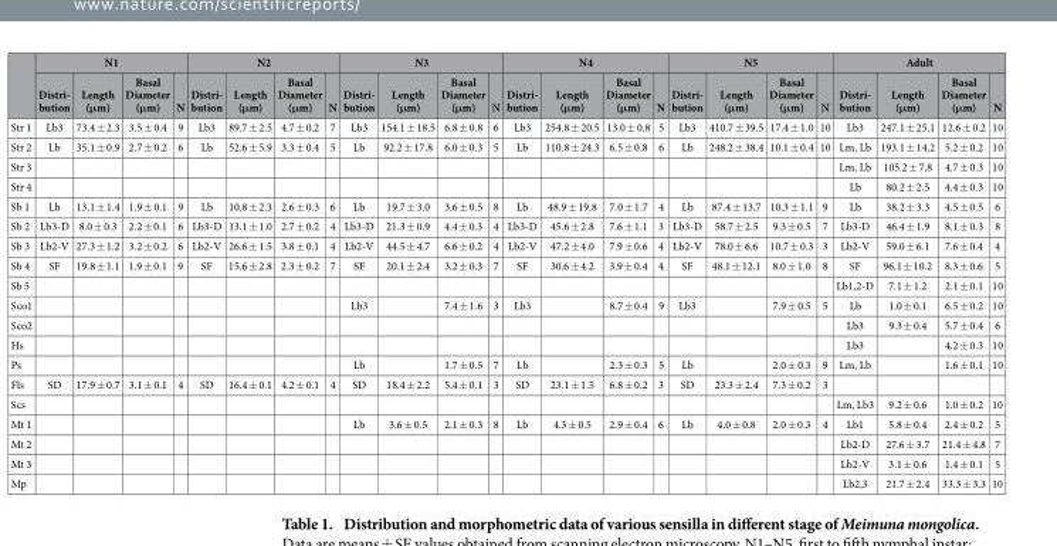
<table><thead><tr><td rowspan="2"></td><td colspan="4">N1</td><td colspan="4">N2</td><td colspan="4">N3</td><td colspan="4">N4</td><td colspan="4">N5</td><td colspan="4">Adult</td></tr><tr><td>Distri- bution</td><td>Length (μm)</td><td>Basal Diameter (μm)</td><td>N</td><td>Distri- bution</td><td>Length (μm)</td><td>Basal Diameter (μm)</td><td>N</td><td>Distri- bution</td><td>Length (μm)</td><td>Basal Diameter (μm)</td><td>N</td><td>Distri- bution</td><td>Length (μm)</td><td>Basal Diameter (μm)</td><td>N</td><td>Distri- bution</td><td>Length (μm)</td><td>Basal Diameter (μm)</td><td>N</td><td>Distri- bution</td><td>Length (μm)</td><td>Basal Diameter (μm)</td><td>N</td></tr></thead><tbody><tr><td>Str 1</td><td>Lb3</td><td>73.4 ± 2.3</td><td>3.5 ± 0.4</td><td>9</td><td>Lb3</td><td>89.7 ± 2.5</td><td>4.7 ± 0.2</td><td>7</td><td>Lb3</td><td>154.1 ± 18.5</td><td>6.8 ± 0.8</td><td>6</td><td>Lb3</td><td>254.8 ± 20.5</td><td>13.0 ± 0.8</td><td>5</td><td>Lb3</td><td>410.7 ± 39.5</td><td>17.4 ± 1.0</td><td>10</td><td>Lb3</td><td>247.1 ± 25.1</td><td>12.6 ± 0.2</td><td>10</td></tr><tr><td>Str 2</td><td>Lb</td><td>35.1 ± 0.9</td><td>2.7 ± 0.2</td><td>6</td><td>Lb</td><td>52.6 ± 5.9</td><td>3.3 ± 0.4</td><td>5</td><td>Lb</td><td>92.2 ± 17.8</td><td>6.0 ± 0.3</td><td>5</td><td>Lb</td><td>110.8 ± 24.3</td><td>6.5 ± 0.8</td><td>6</td><td>Lb</td><td>248.2 ± 38.4</td><td>10.1 ± 0.4</td><td>10</td><td>Lm, Lb</td><td>193.1 ± 14.2</td><td>5.2 ± 0.2</td><td>10</td></tr><tr><td>Str 3</td><td></td><td></td><td></td><td></td><td></td><td></td><td></td><td></td><td></td><td></td><td></td><td></td><td></td><td></td><td></td><td></td><td></td><td></td><td></td><td></td><td>Lm, Lb</td><td>105.2 ± 7.8</td><td>4.7 ± 0.3</td><td>10</td></tr><tr><td>Str 4</td><td></td><td></td><td></td><td></td><td></td><td></td><td></td><td></td><td></td><td></td><td></td><td></td><td></td><td></td><td></td><td></td><td></td><td></td><td></td><td></td><td>Lb</td><td>80.2 ± 2.5</td><td>4.4 ± 0.3</td><td>10</td></tr><tr><td>Sb 1</td><td>Lb</td><td>13.1 ± 1.4</td><td>1.9 ± 0.1</td><td>9</td><td>Lb</td><td>10.8 ± 2.3</td><td>2.6 ± 0.3</td><td>6</td><td>Lb</td><td>19.7 ± 3.0</td><td>3.6 ± 0.5</td><td>8</td><td>Lb</td><td>48.9 ± 19.8</td><td>7.0 ± 1.7</td><td>4</td><td>Lb</td><td>87.4 ± 13.7</td><td>10.3 ± 1.1</td><td>9</td><td>Lb</td><td>38.2 ± 3.3</td><td>4.5 ± 0.5</td><td>6</td></tr><tr><td>Sb 2</td><td>Lb3-D</td><td>8.0 ± 0.3</td><td>2.2 ± 0.1</td><td>6</td><td>Lb3-D</td><td>13.1 ± 1.0</td><td>2.7 ± 0.2</td><td>4</td><td>Lb3-D</td><td>21.3 ± 0.9</td><td>4.4 ± 0.3</td><td>4</td><td>Lb3-D</td><td>45.6 ± 2.8</td><td>7.6 ± 1.1</td><td>3</td><td>Lb3-D</td><td>58.7 ± 2.5</td><td>9.3 ± 0.5</td><td>7</td><td>Lb3-D</td><td>46.4 ± 1.9</td><td>8.1 ± 0.3</td><td>8</td></tr><tr><td>Sb 3</td><td>Lb2-V</td><td>27.3 ± 1.2</td><td>3.2 ± 0.2</td><td>6</td><td>Lb2-V</td><td>26.6 ± 1.5</td><td>3.8 ± 0.1</td><td>4</td><td>Lb2-V</td><td>44.5 ± 4.7</td><td>6.6 ± 0.2</td><td>4</td><td>Lb2-V</td><td>47.2 ± 4.0</td><td>7.9 ± 0.6</td><td>4</td><td>Lb2-V</td><td>78.0 ± 6.6</td><td>10.7 ± 0.3</td><td>3</td><td>Lb2-V</td><td>59.0 ± 6.1</td><td>7.6 ± 0.4</td><td>4</td></tr><tr><td>Sb 4</td><td>SF</td><td>19.8 ± 1.1</td><td>1.9 ± 0.1</td><td>9</td><td>SF</td><td>15.6 ± 2.8</td><td>2.3 ± 0.2</td><td>7</td><td>SF</td><td>20.1 ± 2.4</td><td>3.2 ± 0.3</td><td>7</td><td>SF</td><td>30.6 ± 4.2</td><td>3.9 ± 0.4</td><td>4</td><td>SF</td><td>48.1 ± 12.1</td><td>8.0 ± 1.0</td><td>8</td><td>SF</td><td>96.1 ± 10.2</td><td>8.3 ± 0.6</td><td>5</td></tr><tr><td>Sb 5</td><td></td><td></td><td></td><td></td><td></td><td></td><td></td><td></td><td></td><td></td><td></td><td></td><td></td><td></td><td></td><td></td><td></td><td></td><td></td><td></td><td>Lb1,2-D</td><td>7.1 ± 1.2</td><td>2.1 ± 0.1</td><td>10</td></tr><tr><td>Sco1</td><td></td><td></td><td></td><td></td><td></td><td></td><td></td><td></td><td>Lb3</td><td></td><td>7.4 ± 1.6</td><td>3</td><td>Lb3</td><td></td><td>8.7 ± 0.4</td><td>9</td><td>Lb3</td><td></td><td>7.9 ± 0.5</td><td>5</td><td>Lb</td><td>1.0 ± 0.1</td><td>6.5 ± 0.2</td><td>10</td></tr><tr><td>Sco2</td><td></td><td></td><td></td><td></td><td></td><td></td><td></td><td></td><td></td><td></td><td></td><td></td><td></td><td></td><td></td><td></td><td></td><td></td><td></td><td></td><td>Lb3</td><td>9.3 ± 0.4</td><td>5.7 ± 0.4</td><td>6</td></tr><tr><td>Hs</td><td></td><td></td><td></td><td></td><td></td><td></td><td></td><td></td><td></td><td></td><td></td><td></td><td></td><td></td><td></td><td></td><td></td><td></td><td></td><td></td><td>Lb3</td><td></td><td>4.2 ± 0.3</td><td>10</td></tr><tr><td>Ps</td><td></td><td></td><td></td><td></td><td></td><td></td><td></td><td></td><td>Lb</td><td></td><td>1.7 ± 0.5</td><td>7</td><td>Lb</td><td></td><td>2.3 ± 0.3</td><td>5</td><td>Lb</td><td></td><td>2.0 ± 0.3</td><td>9</td><td>Lm, Lb</td><td></td><td>1.6 ± 0.1</td><td>10</td></tr><tr><td>Fls</td><td>SD</td><td>17.9 ± 0.7</td><td>3.1 ± 0.1</td><td>4</td><td>SD</td><td>16.4 ± 0.1</td><td>4.2 ± 0.1</td><td>4</td><td>SD</td><td>18.4 ± 2.2</td><td>5.4 ± 0.1</td><td>3</td><td>SD</td><td>23.1 ± 1.5</td><td>6.8 ± 0.2</td><td>3</td><td>SD</td><td>23.3 ± 2.4</td><td>7.3 ± 0.2</td><td>3</td><td></td><td></td><td></td><td></td></tr><tr><td>Scs</td><td></td><td></td><td></td><td></td><td></td><td></td><td></td><td></td><td></td><td></td><td></td><td></td><td></td><td></td><td></td><td></td><td></td><td></td><td></td><td></td><td>Lm, Lb3</td><td>9.2 ± 0.6</td><td>1.0 ± 0.2</td><td>10</td></tr><tr><td>Mt 1</td><td></td><td></td><td></td><td></td><td></td><td></td><td></td><td></td><td>Lb</td><td>3.6 ± 0.5</td><td>2.1 ± 0.3</td><td>8</td><td>Lb</td><td>4.3 ± 0.5</td><td>2.9 ± 0.4</td><td>6</td><td>Lb</td><td>4.0 ± 0.8</td><td>2.0 ± 0.3</td><td>4</td><td>Lb1</td><td>5.8 ± 0.4</td><td>2.4 ± 0.2</td><td>5</td></tr><tr><td>Mt 2</td><td></td><td></td><td></td><td></td><td></td><td></td><td></td><td></td><td></td><td></td><td></td><td></td><td></td><td></td><td></td><td></td><td></td><td></td><td></td><td></td><td>Lb2-D</td><td>27.6 ± 3.7</td><td>21.4 ± 4.8</td><td>7</td></tr><tr><td>Mt 3</td><td></td><td></td><td></td><td></td><td></td><td></td><td></td><td></td><td></td><td></td><td></td><td></td><td></td><td></td><td></td><td></td><td></td><td></td><td></td><td></td><td>Lb2-V</td><td>3.1 ± 0.6</td><td>1.4 ± 0.1</td><td>5</td></tr><tr><td>Mp</td><td></td><td></td><td></td><td></td><td></td><td></td><td></td><td></td><td></td><td></td><td></td><td></td><td></td><td></td><td></td><td></td><td></td><td></td><td></td><td></td><td>Lb2,3</td><td>21.7 ± 2.4</td><td>33.3 ± 3.3</td><td>10</td></tr></tbody></table>